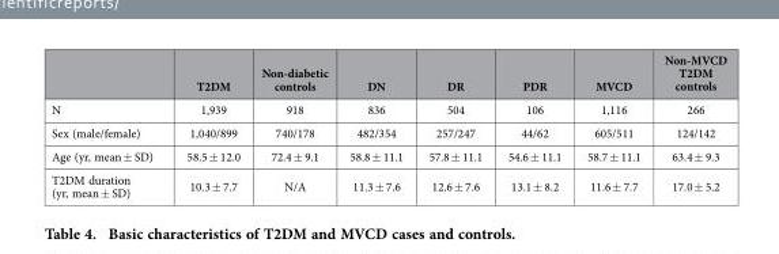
<table><thead><tr><td></td><td>T2DM</td><td>Non-diabetic controls</td><td>DN</td><td>DR</td><td>PDR</td><td>MVCD</td><td>Non-MVCD T2DM controls</td></tr></thead><tbody><tr><td>N</td><td>1,939</td><td>918</td><td>836</td><td>504</td><td>106</td><td>1,116</td><td>266</td></tr><tr><td>Sex (male/female)</td><td>1,040/899</td><td>740/178</td><td>482/354</td><td>257/247</td><td>44/62</td><td>605/511</td><td>124/142</td></tr><tr><td>Age (yr, mean ± SD)</td><td>58.5 ± 12.0</td><td>72.4 ± 9.1</td><td>58.8 ± 11.1</td><td>57.8 ± 11.1</td><td>54.6 ± 11.1</td><td>58.7 ± 11.1</td><td>63.4 ± 9.3</td></tr><tr><td>T2DM duration (yr, mean ± SD)</td><td>10.3 ± 7.7</td><td>N/A</td><td>11.3 ± 7.6</td><td>12.6 ± 7.6</td><td>13.1 ± 8.2</td><td>11.6 ± 7.7</td><td>17.0 ± 5.2</td></tr></tbody></table>